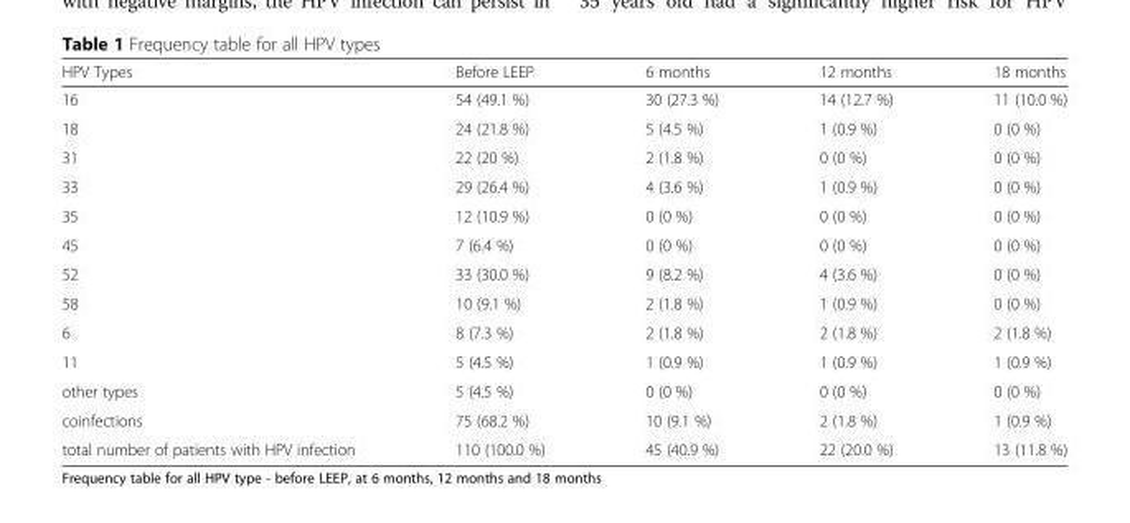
<table><thead><tr><td>HPV Types</td><td>Before LEEP</td><td>6 months</td><td>12 months</td><td>18 months</td></tr></thead><tbody><tr><td>16</td><td>54 (49.1 %)</td><td>30 (27.3 %)</td><td>14 (12.7 %)</td><td>11 (10.0 %)</td></tr><tr><td>18</td><td>24 (21.8 %)</td><td>5 (4.5 %)</td><td>1 (0.9 %)</td><td>0 (0 %)</td></tr><tr><td>31</td><td>22 (20 %)</td><td>2 (1.8 %)</td><td>0 (0 %)</td><td>0 (0 %)</td></tr><tr><td>33</td><td>29 (26.4 %)</td><td>4 (3.6 %)</td><td>1 (0.9 %)</td><td>0 (0 %)</td></tr><tr><td>35</td><td>12 (10.9 %)</td><td>0 (0 %)</td><td>0 (0 %)</td><td>0 (0 %)</td></tr><tr><td>45</td><td>7 (6.4 %)</td><td>0 (0 %)</td><td>0 (0 %)</td><td>0 (0 %)</td></tr><tr><td>52</td><td>33 (30.0 %)</td><td>9 (8.2 %)</td><td>4 (3.6 %)</td><td>0 (0 %)</td></tr><tr><td>58</td><td>10 (9.1 %)</td><td>2 (1.8 %)</td><td>1 (0.9 %)</td><td>0 (0 %)</td></tr><tr><td>6</td><td>8 (7.3 %)</td><td>2 (1.8 %)</td><td>2 (1.8 %)</td><td>2 (1.8 %)</td></tr><tr><td>11</td><td>5 (4.5 %)</td><td>1 (0.9 %)</td><td>1 (0.9 %)</td><td>1 (0.9 %)</td></tr><tr><td>other types</td><td>5 (4.5 %)</td><td>0 (0 %)</td><td>0 (0 %)</td><td>0 (0 %)</td></tr><tr><td>coinfections</td><td>75 (68.2 %)</td><td>10 (9.1 %)</td><td>2 (1.8 %)</td><td>1 (0.9 %)</td></tr><tr><td>total number of patients with HPV infection</td><td>110 (100.0 %)</td><td>45 (40.9 %)</td><td>22 (20.0 %)</td><td>13 (11.8 %)</td></tr></tbody></table>